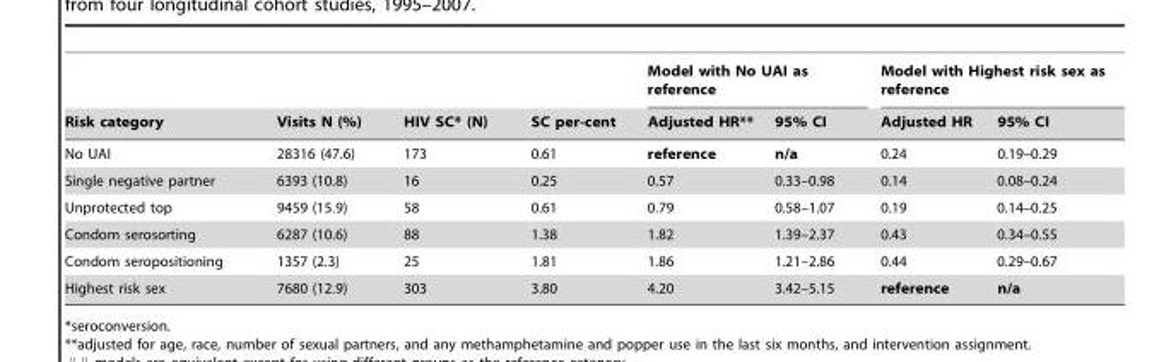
<table><thead><tr><td rowspan="2">Risk category</td><td rowspan="2">Visits N (%)</td><td rowspan="2">HIV SC* (N)</td><td rowspan="2">SC per-cent</td><td colspan="2">Model with No UAI as reference</td><td colspan="2">Model with Highest risk sex as reference</td></tr><tr><td>Adjusted HR**</td><td>95% CI</td><td>Adjusted HR</td><td>95% CI</td></tr></thead><tbody><tr><td>No UAI</td><td>28316 (47.6)</td><td>173</td><td>0.61</td><td>reference</td><td>n/a</td><td>0.24</td><td>0.19–0.29</td></tr><tr><td>Single negative partner</td><td>6393 (10.8)</td><td>16</td><td>0.25</td><td>0.57</td><td>0.33–0.98</td><td>0.14</td><td>0.08–0.24</td></tr><tr><td>Unprotected top</td><td>9459 (15.9)</td><td>58</td><td>0.61</td><td>0.79</td><td>0.58–1.07</td><td>0.19</td><td>0.14–0.25</td></tr><tr><td>Condom serosorting</td><td>6287 (10.6)</td><td>88</td><td>1.38</td><td>1.82</td><td>1.39–2.37</td><td>0.43</td><td>0.34–0.55</td></tr><tr><td>Condom seropositioning</td><td>1357 (2.3)</td><td>25</td><td>1.81</td><td>1.86</td><td>1.21–2.86</td><td>0.44</td><td>0.29–0.67</td></tr><tr><td>Highest risk sex</td><td>7680 (12.9)</td><td>303</td><td>3.80</td><td>4.20</td><td>3.42–5.15</td><td>reference</td><td>n/a</td></tr></tbody></table>